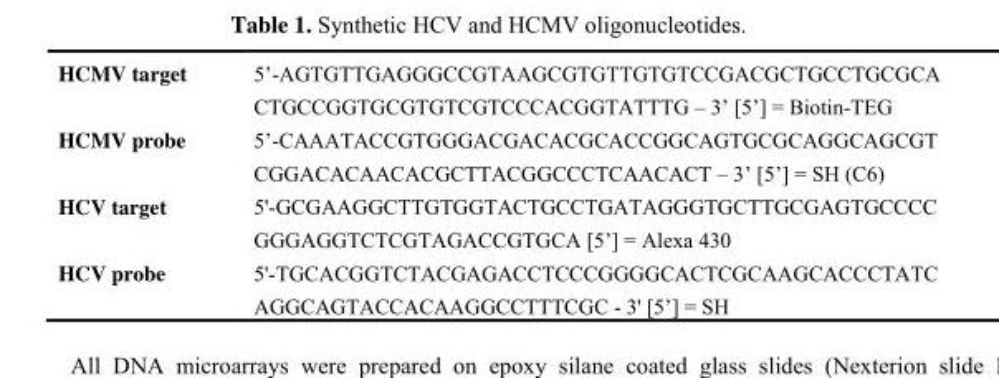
<table><tbody><tr><td>HCMV target</td><td>5’-AGTGTTGAGGGCCGTAAGCGTGTTGTGTCCGACGCTGCCTGCGCA CTGCCGGTGCGTGTCGTCCCACGGTATTTG – 3’ [5’] = Biotin-TEG</td></tr><tr><td>HCMV probe</td><td>5’-CAAATACCGTGGGACGACACGCACCGGCAGTGCGCAGGCAGCGT CGGACACAACACGCTTACGGCCCTCAACACT – 3’ [5’] = SH (C6)</td></tr><tr><td>HCV target</td><td>5&#x27;-GCGAAGGCTTGTGGTACTGCCTGATAGGGTGCTTGCGAGTGCCCC GGGAGGTCTCGTAGACCGTGCA [5’] = Alexa 430</td></tr><tr><td>HCV probe</td><td>5&#x27;-TGCACGGTCTACGAGACCTCCCGGGGCACTCGCAAGCACCCTATC AGGCAGTACCACAAGGCCTTTCGC - 3&#x27; [5’] = SH</td></tr></tbody></table>